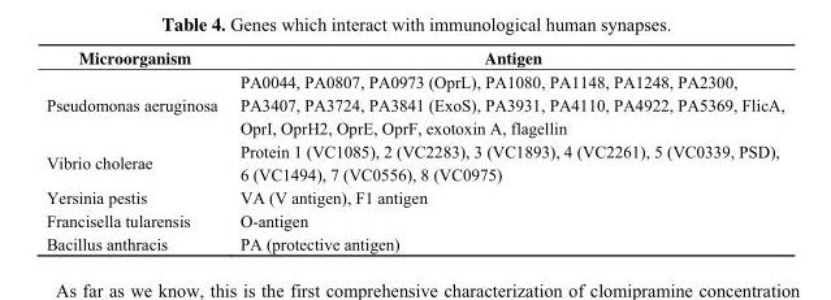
<table><thead><tr><td>Microorganism</td><td>Antigen</td></tr></thead><tbody><tr><td>Pseudomonas aeruginosa</td><td>PA0044, PA0807, PA0973 (OprL), PA1080, PA1148, PA1248, PA2300, PA3407, PA3724, PA3841 (ExoS), PA3931, PA4110, PA4922, PA5369, FlicA, OprI, OprH2, OprE, OprF, exotoxin A, flagellin</td></tr><tr><td>Vibrio cholerae</td><td>Protein 1 (VC1085), 2 (VC2283), 3 (VC1893), 4 (VC2261), 5 (VC0339, PSD), 6 (VC1494), 7 (VC0556), 8 (VC0975)</td></tr><tr><td>Yersinia pestis</td><td>VA (V antigen), F1 antigen</td></tr><tr><td>Francisella tularensis</td><td>O-antigen</td></tr><tr><td>Bacillus anthracis</td><td>PA (protective antigen)</td></tr></tbody></table>